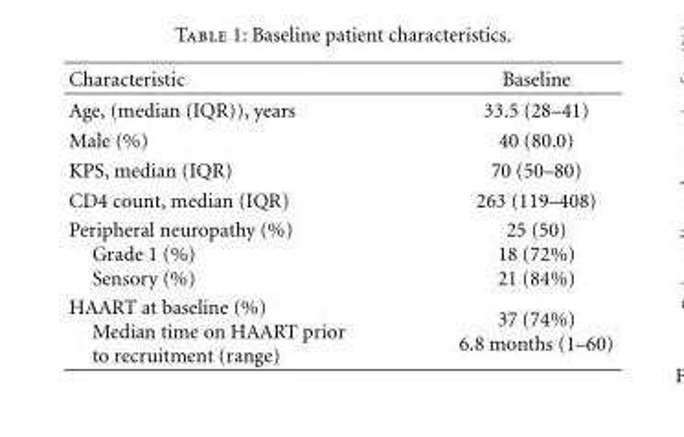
<table><thead><tr><td>Characteristic</td><td>Baseline</td></tr></thead><tbody><tr><td>Age, (median (IQR)), years</td><td>33.5 (28–41)</td></tr><tr><td>Male (%)</td><td>40 (80.0)</td></tr><tr><td>KPS, median (IQR)</td><td>70 (50–80)</td></tr><tr><td>CD4 count, median (IQR)</td><td>263 (119–408)</td></tr><tr><td>Peripheral neuropathy (%) Grade 1 (%) Sensory (%)</td><td>25 (50) 18 (72%) 21 (84%)</td></tr><tr><td>HAART at baseline (%) Median time on HAART prior to recruitment (range)</td><td>37 (74%) 6.8 months (1–60)</td></tr></tbody></table>